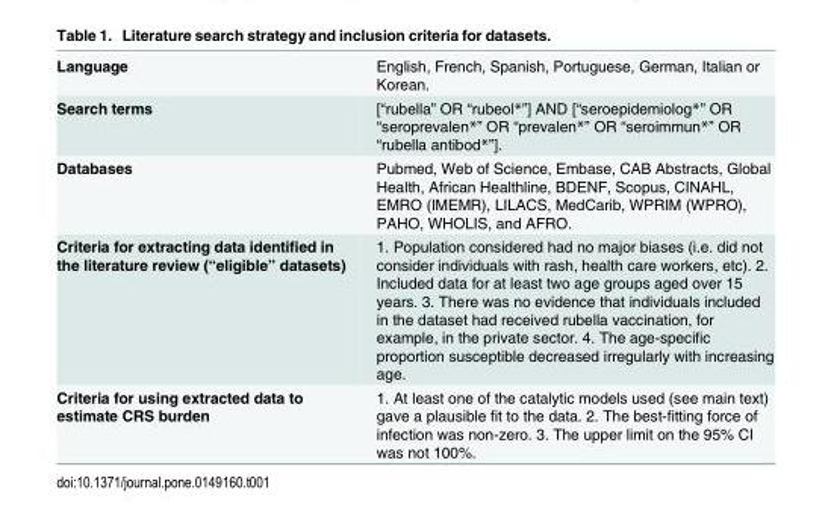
<table><tbody><tr><td>Language</td><td>English, French, Spanish, Portuguese, German, Italian or Korean.</td></tr><tr><td>Search terms</td><td>[“rubella” OR “rubeol*”] AND [“seroepidemiolog*” OR “seroprevalen*” OR “prevalen*” OR “seroimmun*” OR “rubella antibod*”].</td></tr><tr><td>Databases</td><td>Pubmed, Web of Science, Embase, CAB Abstracts, Global Health, African Healthline, BDENF, Scopus, CINAHL, EMRO (IMEMR), LILACS, MedCarib, WPRIM (WPRO), PAHO, WHOLIS, and AFRO.</td></tr><tr><td>Criteria for extracting data identified in the literature review (“eligible” datasets)</td><td>1. Population considered had no major biases (i.e. did not consider individuals with rash, health care workers, etc). 2. Included data for at least two age groups aged over 15 years. 3. There was no evidence that individuals included in the dataset had received rubella vaccination, for example, in the private sector. 4. The age-specific proportion susceptible decreased irregularly with increasing age.</td></tr><tr><td>Criteria for using extracted data to estimate CRS burden</td><td>1. At least one of the catalytic models used (see main text) gave a plausible fit to the data. 2. The best-fitting force of infection was non-zero. 3. The upper limit on the 95% CI was not 100%.</td></tr></tbody></table>